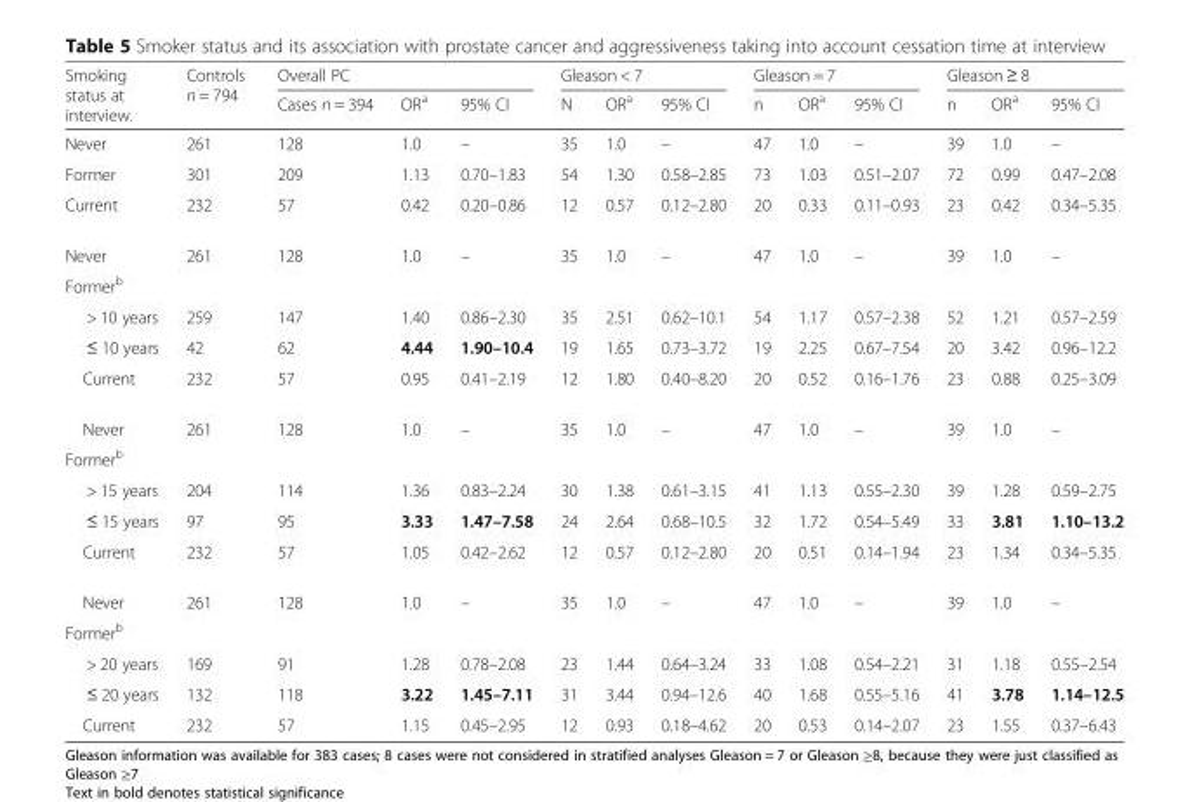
<table><thead><tr><td rowspan="2">Smoking status at interview.</td><td rowspan="2">Controls n = 794</td><td colspan="3">Overall PC</td><td colspan="3">Gleason &lt; 7</td><td colspan="3">Gleason = 7</td><td colspan="3">Gleason ≥ 8</td></tr><tr><td>Cases n = 394</td><td>OR<sup>a</sup></td><td>95% CI</td><td>N</td><td>OR<sup>a</sup></td><td>95% CI</td><td>n</td><td>OR<sup>a</sup></td><td>95% CI</td><td>n</td><td>OR<sup>a</sup></td><td>95% CI</td></tr></thead><tbody><tr><td>Never</td><td>261</td><td>128</td><td>1.0</td><td>–</td><td>35</td><td>1.0</td><td>–</td><td>47</td><td>1.0</td><td>–</td><td>39</td><td>1.0</td><td>–</td></tr><tr><td>Former</td><td>301</td><td>209</td><td>1.13</td><td>0.70–1.83</td><td>54</td><td>1.30</td><td>0.58–2.85</td><td>73</td><td>1.03</td><td>0.51–2.07</td><td>72</td><td>0.99</td><td>0.47–2.08</td></tr><tr><td>Current</td><td>232</td><td>57</td><td>0.42</td><td>0.20–0.86</td><td>12</td><td>0.57</td><td>0.12–2.80</td><td>20</td><td>0.33</td><td>0.11–0.93</td><td>23</td><td>0.42</td><td>0.34–5.35</td></tr><tr><td>Never</td><td>261</td><td>128</td><td>1.0</td><td>–</td><td>35</td><td>1.0</td><td>–</td><td>47</td><td>1.0</td><td>–</td><td>39</td><td>1.0</td><td>–</td></tr><tr><td colspan="14">Former<sup>b</sup></td></tr><tr><td>&gt; 10 years</td><td>259</td><td>147</td><td>1.40</td><td>0.86–2.30</td><td>35</td><td>2.51</td><td>0.62–10.1</td><td>54</td><td>1.17</td><td>0.57–2.38</td><td>52</td><td>1.21</td><td>0.57–2.59</td></tr><tr><td>≤ 10 years</td><td>42</td><td>62</td><td>4.44</td><td>1.90–10.4</td><td>19</td><td>1.65</td><td>0.73–3.72</td><td>19</td><td>2.25</td><td>0.67–7.54</td><td>20</td><td>3.42</td><td>0.96–12.2</td></tr><tr><td>Current</td><td>232</td><td>57</td><td>0.95</td><td>0.41–2.19</td><td>12</td><td>1.80</td><td>0.40–8.20</td><td>20</td><td>0.52</td><td>0.16–1.76</td><td>23</td><td>0.88</td><td>0.25–3.09</td></tr><tr><td>Never</td><td>261</td><td>128</td><td>1.0</td><td>–</td><td>35</td><td>1.0</td><td>–</td><td>47</td><td>1.0</td><td>–</td><td>39</td><td>1.0</td><td>–</td></tr><tr><td colspan="14">Former<sup>b</sup></td></tr><tr><td>&gt; 15 years</td><td>204</td><td>114</td><td>1.36</td><td>0.83–2.24</td><td>30</td><td>1.38</td><td>0.61–3.15</td><td>41</td><td>1.13</td><td>0.55–2.30</td><td>39</td><td>1.28</td><td>0.59–2.75</td></tr><tr><td>≤ 15 years</td><td>97</td><td>95</td><td>3.33</td><td>1.47–7.58</td><td>24</td><td>2.64</td><td>0.68–10.5</td><td>32</td><td>1.72</td><td>0.54–5.49</td><td>33</td><td>3.81</td><td>1.10–13.2</td></tr><tr><td>Current</td><td>232</td><td>57</td><td>1.05</td><td>0.42–2.62</td><td>12</td><td>0.57</td><td>0.12–2.80</td><td>20</td><td>0.51</td><td>0.14–1.94</td><td>23</td><td>1.34</td><td>0.34–5.35</td></tr><tr><td>Never</td><td>261</td><td>128</td><td>1.0</td><td>–</td><td>35</td><td>1.0</td><td>–</td><td>47</td><td>1.0</td><td>–</td><td>39</td><td>1.0</td><td>–</td></tr><tr><td colspan="14">Former<sup>b</sup></td></tr><tr><td>&gt; 20 years</td><td>169</td><td>91</td><td>1.28</td><td>0.78–2.08</td><td>23</td><td>1.44</td><td>0.64–3.24</td><td>33</td><td>1.08</td><td>0.54–2.21</td><td>31</td><td>1.18</td><td>0.55–2.54</td></tr><tr><td>≤ 20 years</td><td>132</td><td>118</td><td>3.22</td><td>1.45–7.11</td><td>31</td><td>3.44</td><td>0.94–12.6</td><td>40</td><td>1.68</td><td>0.55–5.16</td><td>41</td><td>3.78</td><td>1.14–12.5</td></tr><tr><td>Current</td><td>232</td><td>57</td><td>1.15</td><td>0.45–2.95</td><td>12</td><td>0.93</td><td>0.18–4.62</td><td>20</td><td>0.53</td><td>0.14–2.07</td><td>23</td><td>1.55</td><td>0.37–6.43</td></tr></tbody></table>